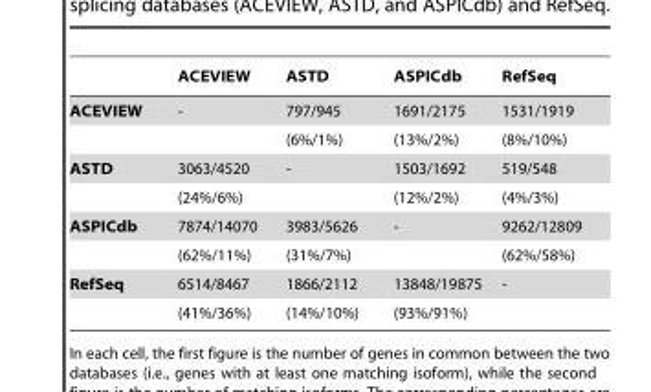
<table><thead><tr><td></td><td>ACEVIEW</td><td>ASTD</td><td>ASPICdb</td><td>RefSeq</td></tr></thead><tbody><tr><td rowspan="2">ACEVIEW</td><td>-</td><td>797/945</td><td>1691/2175</td><td>1531/1919</td></tr><tr><td></td><td>(6%/1%)</td><td>(13%/2%)</td><td>(8%/10%)</td></tr><tr><td rowspan="2">ASTD</td><td>3063/4520</td><td>-</td><td>1503/1692</td><td>519/548</td></tr><tr><td>(24%/6%)</td><td></td><td>(12%/2%)</td><td>(4%/3%)</td></tr><tr><td rowspan="2">ASPICdb</td><td>7874/14070</td><td>3983/5626</td><td>-</td><td>9262/12809</td></tr><tr><td>(62%/11%)</td><td>(31%/7%)</td><td></td><td>(62%/58%)</td></tr><tr><td rowspan="2">RefSeq</td><td>6514/8467</td><td>1866/2112</td><td>13848/19875</td><td>-</td></tr><tr><td>(41%/36%)</td><td>(14%/10%)</td><td>(93%/91%)</td><td></td></tr></tbody></table>